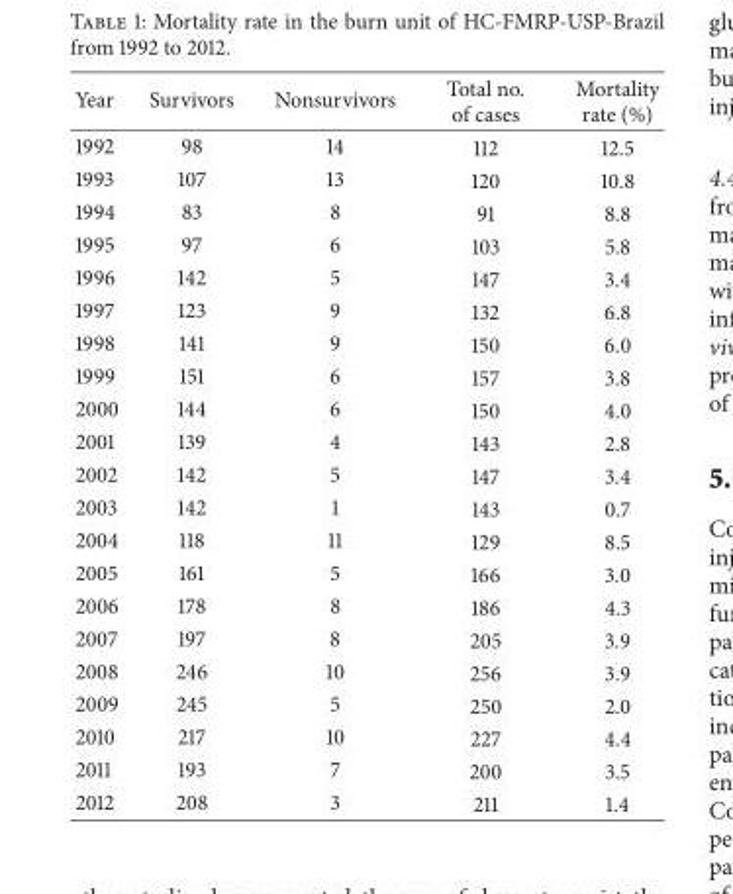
<table><thead><tr><td>Year</td><td>Survivors</td><td>Nonsurvivors</td><td>Total no. of cases</td><td>Mortality rate (%)</td></tr></thead><tbody><tr><td>1992</td><td>98</td><td>14</td><td>112</td><td>12.5</td></tr><tr><td>1993</td><td>107</td><td>13</td><td>120</td><td>10.8</td></tr><tr><td>1994</td><td>83</td><td>8</td><td>91</td><td>8.8</td></tr><tr><td>1995</td><td>97</td><td>6</td><td>103</td><td>5.8</td></tr><tr><td>1996</td><td>142</td><td>5</td><td>147</td><td>3.4</td></tr><tr><td>1997</td><td>123</td><td>9</td><td>132</td><td>6.8</td></tr><tr><td>1998</td><td>141</td><td>9</td><td>150</td><td>6.0</td></tr><tr><td>1999</td><td>151</td><td>6</td><td>157</td><td>3.8</td></tr><tr><td>2000</td><td>144</td><td>6</td><td>150</td><td>4.0</td></tr><tr><td>2001</td><td>139</td><td>4</td><td>143</td><td>2.8</td></tr><tr><td>2002</td><td>142</td><td>5</td><td>147</td><td>3.4</td></tr><tr><td>2003</td><td>142</td><td>1</td><td>143</td><td>0.7</td></tr><tr><td>2004</td><td>118</td><td>11</td><td>129</td><td>8.5</td></tr><tr><td>2005</td><td>161</td><td>5</td><td>166</td><td>3.0</td></tr><tr><td>2006</td><td>178</td><td>8</td><td>186</td><td>4.3</td></tr><tr><td>2007</td><td>197</td><td>8</td><td>205</td><td>3.9</td></tr><tr><td>2008</td><td>246</td><td>10</td><td>256</td><td>3.9</td></tr><tr><td>2009</td><td>245</td><td>5</td><td>250</td><td>2.0</td></tr><tr><td>2010</td><td>217</td><td>10</td><td>227</td><td>4.4</td></tr><tr><td>2011</td><td>193</td><td>7</td><td>200</td><td>3.5</td></tr><tr><td>2012</td><td>208</td><td>3</td><td>211</td><td>1.4</td></tr></tbody></table>